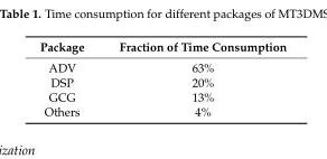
<table><thead><tr><td>Package</td><td>Fraction of Time Consumption</td></tr></thead><tbody><tr><td>ADV</td><td>63%</td></tr><tr><td>DSP</td><td>20%</td></tr><tr><td>GCG</td><td>13%</td></tr><tr><td>Others</td><td>4%</td></tr></tbody></table>